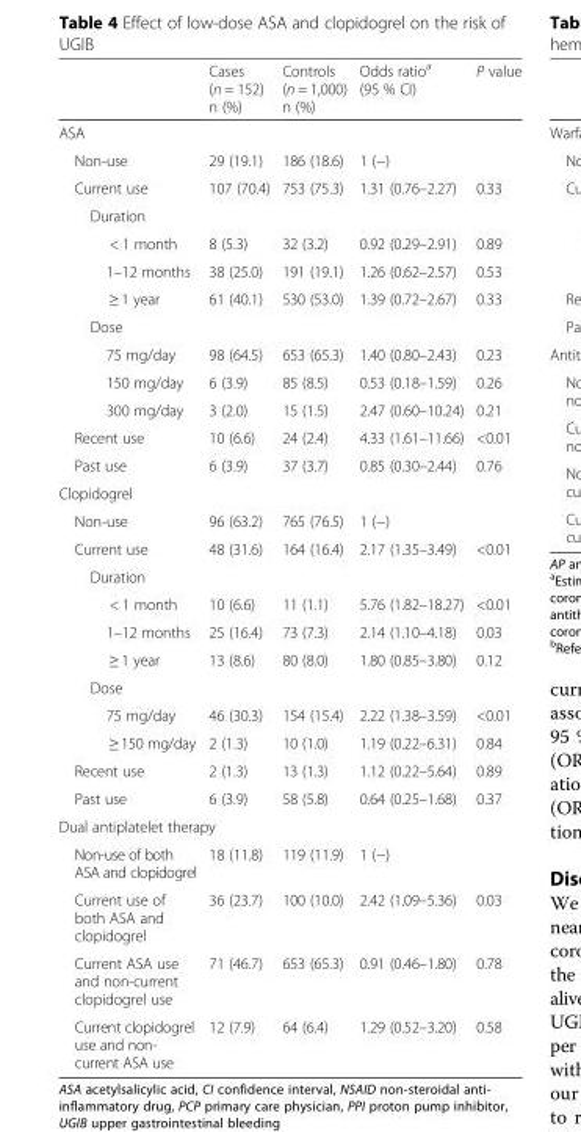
<table><thead><tr><td></td><td>Cases (n = 152) n (%)</td><td>Controls (n = 1,000) n (%)</td><td>Odds ratio<sup>a</sup> (95 % CI)</td><td>P value</td></tr></thead><tbody><tr><td colspan="5">ASA</td></tr><tr><td>Non-use</td><td>29 (19.1)</td><td>186 (18.6)</td><td>1 (−)</td><td></td></tr><tr><td>Current use</td><td>107 (70.4)</td><td>753 (75.3)</td><td>1.31 (0.76–2.27)</td><td>0.33</td></tr><tr><td colspan="5">Duration</td></tr><tr><td>&lt; 1 month</td><td>8 (5.3)</td><td>32 (3.2)</td><td>0.92 (0.29–2.91)</td><td>0.89</td></tr><tr><td>1–12 months</td><td>38 (25.0)</td><td>191 (19.1)</td><td>1.26 (0.62–2.57)</td><td>0.53</td></tr><tr><td>≥ 1 year</td><td>61 (40.1)</td><td>530 (53.0)</td><td>1.39 (0.72–2.67)</td><td>0.33</td></tr><tr><td colspan="5">Dose</td></tr><tr><td>75 mg/day</td><td>98 (64.5)</td><td>653 (65.3)</td><td>1.40 (0.80–2.43)</td><td>0.23</td></tr><tr><td>150 mg/day</td><td>6 (3.9)</td><td>85 (8.5)</td><td>0.53 (0.18–1.59)</td><td>0.26</td></tr><tr><td>300 mg/day</td><td>3 (2.0)</td><td>15 (1.5)</td><td>2.47 (0.60–10.24)</td><td>0.21</td></tr><tr><td>Recent use</td><td>10 (6.6)</td><td>24 (2.4)</td><td>4.33 (1.61–11.66)</td><td>&lt;0.01</td></tr><tr><td>Past use</td><td>6 (3.9)</td><td>37 (3.7)</td><td>0.85 (0.30–2.44)</td><td>0.76</td></tr><tr><td colspan="5">Clopidogrel</td></tr><tr><td>Non-use</td><td>96 (63.2)</td><td>765 (76.5)</td><td>1 (−)</td><td></td></tr><tr><td>Current use</td><td>48 (31.6)</td><td>164 (16.4)</td><td>2.17 (1.35–3.49)</td><td>&lt;0.01</td></tr><tr><td colspan="5">Duration</td></tr><tr><td>&lt; 1 month</td><td>10 (6.6)</td><td>11 (1.1)</td><td>5.76 (1.82–18.27)</td><td>&lt;0.01</td></tr><tr><td>1–12 months</td><td>25 (16.4)</td><td>73 (7.3)</td><td>2.14 (1.10–4.18)</td><td>0.03</td></tr><tr><td>≥ 1 year</td><td>13 (8.6)</td><td>80 (8.0)</td><td>1.80 (0.85–3.80)</td><td>0.12</td></tr><tr><td colspan="5">Dose</td></tr><tr><td>75 mg/day</td><td>46 (30.3)</td><td>154 (15.4)</td><td>2.22 (1.38–3.59)</td><td>&lt;0.01</td></tr><tr><td>≥ 150 mg/day</td><td>2 (1.3)</td><td>10 (1.0)</td><td>1.19 (0.22–6.31)</td><td>0.84</td></tr><tr><td>Recent use</td><td>2 (1.3)</td><td>13 (1.3)</td><td>1.12 (0.22–5.64)</td><td>0.89</td></tr><tr><td>Past use</td><td>6 (3.9)</td><td>58 (5.8)</td><td>0.64 (0.25–1.68)</td><td>0.37</td></tr><tr><td colspan="5">Dual antiplatelet therapy</td></tr><tr><td>Non-use of both ASA and clopidogrel</td><td>18 (11.8)</td><td>119 (11.9)</td><td>1 (−)</td><td></td></tr><tr><td>Current use of both ASA and clopidogrel</td><td>36 (23.7)</td><td>100 (10.0)</td><td>2.42 (1.09–5.36)</td><td>0.03</td></tr><tr><td>Current ASA use and non-current clopidogrel use</td><td>71 (46.7)</td><td>653 (65.3)</td><td>0.91 (0.46–1.80)</td><td>0.78</td></tr><tr><td>Current clopidogrel use and non- current ASA use</td><td>12 (7.9)</td><td>64 (6.4)</td><td>1.29 (0.52–3.20)</td><td>0.58</td></tr></tbody></table>